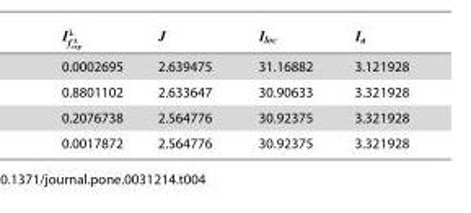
<table><tbody><tr><td>0.0002695</td><td>2.639475</td><td>31.16882</td><td>3.121928</td></tr><tr><td>0.8801102</td><td>2.633647</td><td>30.90633</td><td>3.321928</td></tr><tr><td>0.2076738</td><td>2.564776</td><td>30.92375</td><td>3.321928</td></tr><tr><td>0.0017872</td><td>2.564776</td><td>30.92375</td><td>3.321928</td></tr></tbody></table>